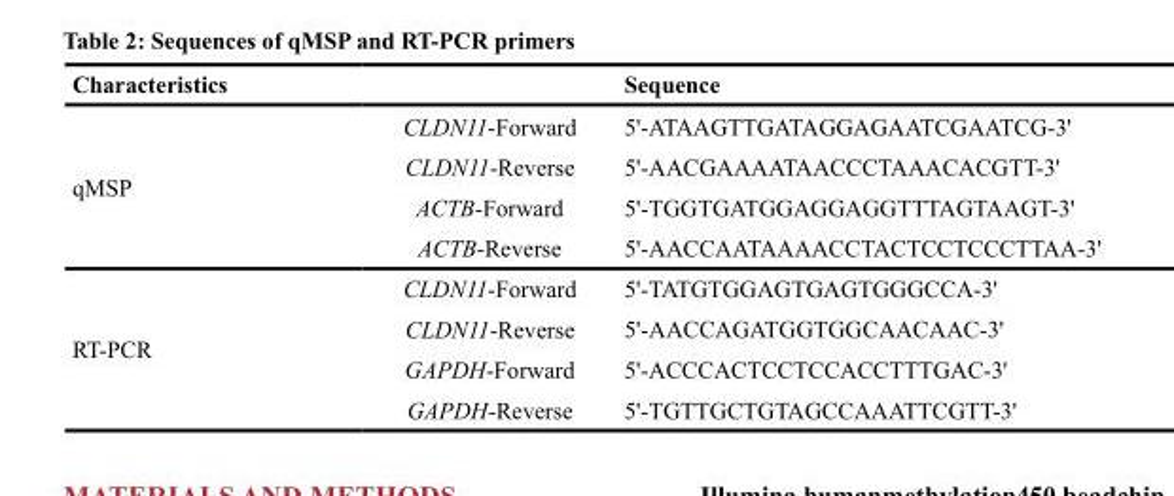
<table><thead><tr><td>Characteristics</td><td></td><td>Sequence</td></tr></thead><tbody><tr><td rowspan="4">qMSP</td><td>CLDN11-Forward</td><td>5&#x27;-ATAAGTTGATAGGAGAATCGAATCG-3&#x27;</td></tr><tr><td>CLDN11-Reverse</td><td>5&#x27;-AACGAAAATAACCCTAAACACGTT-3&#x27;</td></tr><tr><td>ACTB-Forward</td><td>5&#x27;-TGGTGATGGAGGAGGTTTAGTAAGT-3&#x27;</td></tr><tr><td>ACTB-Reverse</td><td>5&#x27;-AACCAATAAAACCTACTCCTCCCTTAA-3&#x27;</td></tr><tr><td rowspan="4">RT-PCR</td><td>CLDN11-Forward</td><td>5&#x27;-TATGTGGAGTGAGTGGGCCA-3&#x27;</td></tr><tr><td>CLDN11-Reverse</td><td>5&#x27;-AACCAGATGGTGGCAACAAC-3&#x27;</td></tr><tr><td>GAPDH-Forward</td><td>5&#x27;-ACCCACTCCTCCACCTTTGAC-3&#x27;</td></tr><tr><td>GAPDH-Reverse</td><td>5&#x27;-TGTTGCTGTAGCCAAATTCGTT-3&#x27;</td></tr></tbody></table>